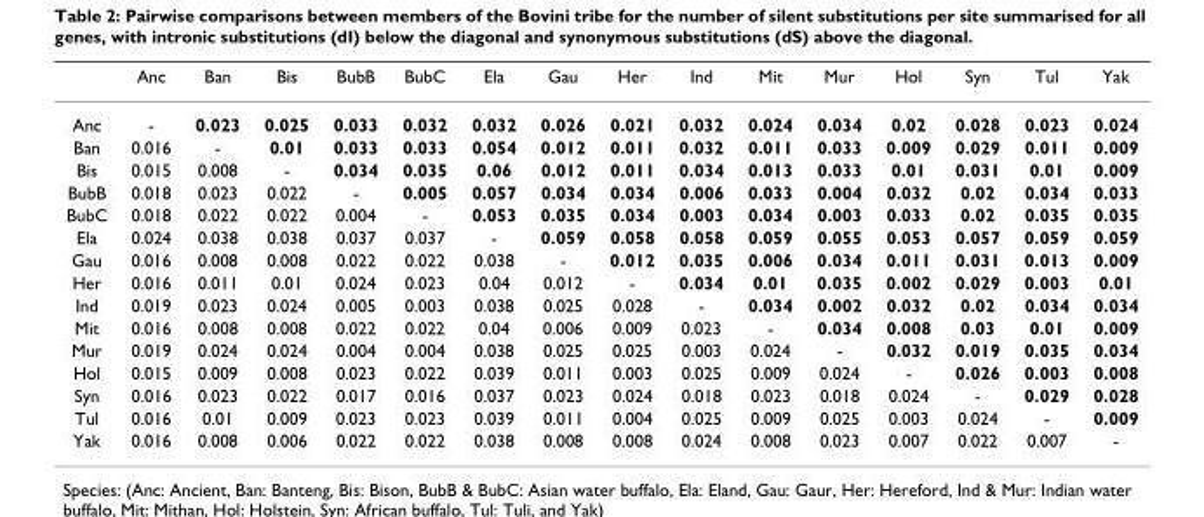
<table><thead><tr><td></td><td>Anc</td><td>Ban</td><td>Bis</td><td>BubB</td><td>BubC</td><td>Ela</td><td>Gau</td><td>Her</td><td>Ind</td><td>Mit</td><td>Mur</td><td>Hol</td><td>Syn</td><td>Tul</td><td>Yak</td></tr></thead><tbody><tr><td>Anc</td><td>-</td><td>0.023</td><td>0.025</td><td>0.033</td><td>0.032</td><td>0.032</td><td>0.026</td><td>0.021</td><td>0.032</td><td>0.024</td><td>0.034</td><td>0.02</td><td>0.028</td><td>0.023</td><td>0.024</td></tr><tr><td>Ban</td><td>0.016</td><td>-</td><td>0.01</td><td>0.033</td><td>0.033</td><td>0.054</td><td>0.012</td><td>0.011</td><td>0.032</td><td>0.011</td><td>0.033</td><td>0.009</td><td>0.029</td><td>0.011</td><td>0.009</td></tr><tr><td>Bis</td><td>0.015</td><td>0.008</td><td>-</td><td>0.034</td><td>0.035</td><td>0.06</td><td>0.012</td><td>0.011</td><td>0.034</td><td>0.013</td><td>0.033</td><td>0.01</td><td>0.031</td><td>0.01</td><td>0.009</td></tr><tr><td>BubB</td><td>0.018</td><td>0.023</td><td>0.022</td><td>-</td><td>0.005</td><td>0.057</td><td>0.034</td><td>0.034</td><td>0.006</td><td>0.033</td><td>0.004</td><td>0.032</td><td>0.02</td><td>0.034</td><td>0.033</td></tr><tr><td>BubC</td><td>0.018</td><td>0.022</td><td>0.022</td><td>0.004</td><td>-</td><td>0.053</td><td>0.035</td><td>0.034</td><td>0.003</td><td>0.034</td><td>0.003</td><td>0.033</td><td>0.02</td><td>0.035</td><td>0.035</td></tr><tr><td>Ela</td><td>0.024</td><td>0.038</td><td>0.038</td><td>0.037</td><td>0.037</td><td>-</td><td>0.059</td><td>0.058</td><td>0.058</td><td>0.059</td><td>0.055</td><td>0.053</td><td>0.057</td><td>0.059</td><td>0.059</td></tr><tr><td>Gau</td><td>0.016</td><td>0.008</td><td>0.008</td><td>0.022</td><td>0.022</td><td>0.038</td><td>-</td><td>0.012</td><td>0.035</td><td>0.006</td><td>0.034</td><td>0.011</td><td>0.031</td><td>0.013</td><td>0.009</td></tr><tr><td>Her</td><td>0.016</td><td>0.011</td><td>0.01</td><td>0.024</td><td>0.023</td><td>0.04</td><td>0.012</td><td>-</td><td>0.034</td><td>0.01</td><td>0.035</td><td>0.002</td><td>0.029</td><td>0.003</td><td>0.01</td></tr><tr><td>Ind</td><td>0.019</td><td>0.023</td><td>0.024</td><td>0.005</td><td>0.003</td><td>0.038</td><td>0.025</td><td>0.028</td><td>-</td><td>0.034</td><td>0.002</td><td>0.032</td><td>0.02</td><td>0.034</td><td>0.034</td></tr><tr><td>Mit</td><td>0.016</td><td>0.008</td><td>0.008</td><td>0.022</td><td>0.022</td><td>0.04</td><td>0.006</td><td>0.009</td><td>0.023</td><td>-</td><td>0.034</td><td>0.008</td><td>0.03</td><td>0.01</td><td>0.009</td></tr><tr><td>Mur</td><td>0.019</td><td>0.024</td><td>0.024</td><td>0.004</td><td>0.004</td><td>0.038</td><td>0.025</td><td>0.025</td><td>0.003</td><td>0.024</td><td>-</td><td>0.032</td><td>0.019</td><td>0.035</td><td>0.034</td></tr><tr><td>Hol</td><td>0.015</td><td>0.009</td><td>0.008</td><td>0.023</td><td>0.022</td><td>0.039</td><td>0.011</td><td>0.003</td><td>0.025</td><td>0.009</td><td>0.024</td><td>-</td><td>0.026</td><td>0.003</td><td>0.008</td></tr><tr><td>Syn</td><td>0.016</td><td>0.023</td><td>0.022</td><td>0.017</td><td>0.016</td><td>0.037</td><td>0.023</td><td>0.024</td><td>0.018</td><td>0.023</td><td>0.018</td><td>0.024</td><td>-</td><td>0.029</td><td>0.028</td></tr><tr><td>Tul</td><td>0.016</td><td>0.01</td><td>0.009</td><td>0.023</td><td>0.023</td><td>0.039</td><td>0.011</td><td>0.004</td><td>0.025</td><td>0.009</td><td>0.025</td><td>0.003</td><td>0.024</td><td>-</td><td>0.009</td></tr><tr><td>Yak</td><td>0.016</td><td>0.008</td><td>0.006</td><td>0.022</td><td>0.022</td><td>0.038</td><td>0.008</td><td>0.008</td><td>0.024</td><td>0.008</td><td>0.023</td><td>0.007</td><td>0.022</td><td>0.007</td><td>-</td></tr></tbody></table>